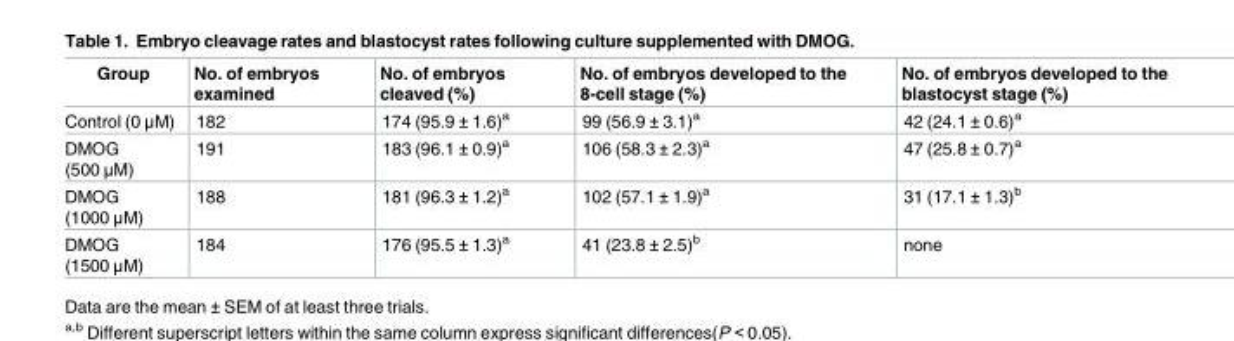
<table><thead><tr><td>Group</td><td>No. of embryos examined</td><td>No. of embryos cleaved (%)</td><td>No. of embryos developed to the 8-cell stage (%)</td><td>No. of embryos developed to the blastocyst stage (%)</td></tr></thead><tbody><tr><td>Control (0 μM)</td><td>182</td><td>174 (95.9 ± 1.6)<sup>a</sup></td><td>99 (56.9 ± 3.1)<sup>a</sup></td><td>42 (24.1 ± 0.6)<sup>a</sup></td></tr><tr><td>DMOG (500 μM)</td><td>191</td><td>183 (96.1 ± 0.9)<sup>a</sup></td><td>106 (58.3 ± 2.3)<sup>a</sup></td><td>47 (25.8 ± 0.7)<sup>a</sup></td></tr><tr><td>DMOG (1000 μM)</td><td>188</td><td>181 (96.3 ± 1.2)<sup>a</sup></td><td>102 (57.1 ± 1.9)<sup>a</sup></td><td>31 (17.1 ± 1.3)<sup>b</sup></td></tr><tr><td>DMOG (1500 μM)</td><td>184</td><td>176 (95.5 ± 1.3)<sup>a</sup></td><td>41 (23.8 ± 2.5)<sup>b</sup></td><td>none</td></tr></tbody></table>